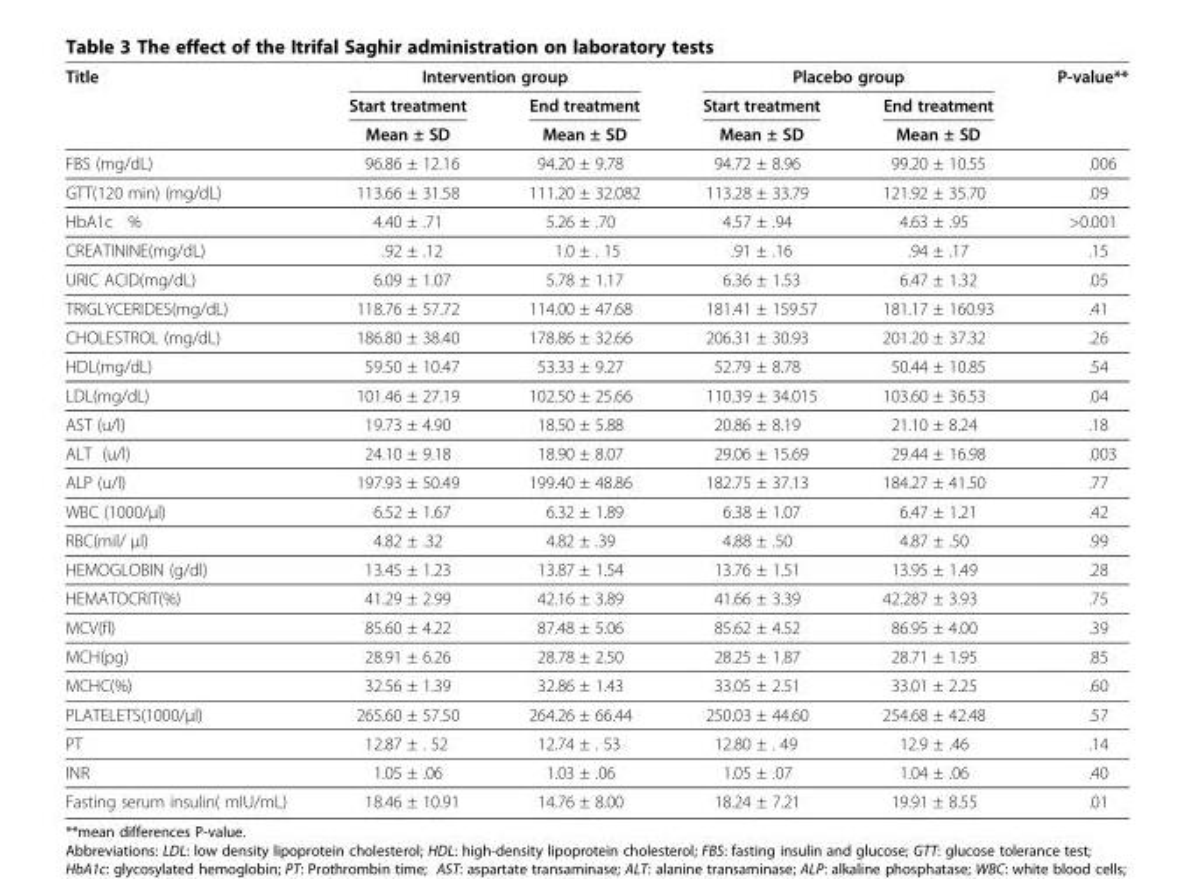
<table><thead><tr><td rowspan="3">Title</td><td colspan="2">Intervention group</td><td colspan="2">Placebo group</td><td rowspan="3">P-value**</td></tr><tr><td rowspan="2">Start treatment Mean ± SD</td><td rowspan="2">End treatment Mean ± SD</td><td rowspan="2">Start treatment Mean ± SD</td><td rowspan="2">End treatment Mean ± SD</td></tr><tr></tr></thead><tbody><tr><td>FBS (mg/dL)</td><td>96.86 ± 12.16</td><td>94.20 ± 9.78</td><td>94.72 ± 8.96</td><td>99.20 ± 10.55</td><td>.006</td></tr><tr><td>GTT(120 min) (mg/dL)</td><td>113.66 ± 31.58</td><td>111.20 ± 32.082</td><td>113.28 ± 33.79</td><td>121.92 ± 35.70</td><td>.09</td></tr><tr><td>HbA1c %</td><td>4.40 ± .71</td><td>5.26 ± .70</td><td>4.57 ± .94</td><td>4.63 ± .95</td><td>&gt;0.001</td></tr><tr><td>CREATININE(mg/dL)</td><td>.92 ± .12</td><td>1.0 ± . 15</td><td>.91 ± .16</td><td>.94 ± .17</td><td>.15</td></tr><tr><td>URIC ACID(mg/dL)</td><td>6.09 ± 1.07</td><td>5.78 ± 1.17</td><td>6.36 ± 1.53</td><td>6.47 ± 1.32</td><td>.05</td></tr><tr><td>TRIGLYCERIDES(mg/dL)</td><td>118.76 ± 57.72</td><td>114.00 ± 47.68</td><td>181.41 ± 159.57</td><td>181.17 ± 160.93</td><td>.41</td></tr><tr><td>CHOLESTROL (mg/dL)</td><td>186.80 ± 38.40</td><td>178.86 ± 32.66</td><td>206.31 ± 30.93</td><td>201.20 ± 37.32</td><td>.26</td></tr><tr><td>HDL(mg/dL)</td><td>59.50 ± 10.47</td><td>53.33 ± 9.27</td><td>52.79 ± 8.78</td><td>50.44 ± 10.85</td><td>.54</td></tr><tr><td>LDL(mg/dL)</td><td>101.46 ± 27.19</td><td>102.50 ± 25.66</td><td>110.39 ± 34.015</td><td>103.60 ± 36.53</td><td>.04</td></tr><tr><td>AST (u/l)</td><td>19.73 ± 4.90</td><td>18.50 ± 5.88</td><td>20.86 ± 8.19</td><td>21.10 ± 8.24</td><td>.18</td></tr><tr><td>ALT (u/l)</td><td>24.10 ± 9.18</td><td>18.90 ± 8.07</td><td>29.06 ± 15.69</td><td>29.44 ± 16.98</td><td>.003</td></tr><tr><td>ALP (u/l)</td><td>197.93 ± 50.49</td><td>199.40 ± 48.86</td><td>182.75 ± 37.13</td><td>184.27 ± 41.50</td><td>.77</td></tr><tr><td>WBC (1000/μl)</td><td>6.52 ± 1.67</td><td>6.32 ± 1.89</td><td>6.38 ± 1.07</td><td>6.47 ± 1.21</td><td>.42</td></tr><tr><td>RBC(mil/ μl)</td><td>4.82 ± .32</td><td>4.82 ± .39</td><td>4.88 ± .50</td><td>4.87 ± .50</td><td>.99</td></tr><tr><td>HEMOGLOBIN (g/dl)</td><td>13.45 ± 1.23</td><td>13.87 ± 1.54</td><td>13.76 ± 1.51</td><td>13.95 ± 1.49</td><td>.28</td></tr><tr><td>HEMATOCRIT(%)</td><td>41.29 ± 2.99</td><td>42.16 ± 3.89</td><td>41.66 ± 3.39</td><td>42.287 ± 3.93</td><td>.75</td></tr><tr><td>MCV(fl)</td><td>85.60 ± 4.22</td><td>87.48 ± 5.06</td><td>85.62 ± 4.52</td><td>86.95 ± 4.00</td><td>.39</td></tr><tr><td>MCH(pg)</td><td>28.91 ± 6.26</td><td>28.78 ± 2.50</td><td>28.25 ± 1.87</td><td>28.71 ± 1.95</td><td>.85</td></tr><tr><td>MCHC(%)</td><td>32.56 ± 1.39</td><td>32.86 ± 1.43</td><td>33.05 ± 2.51</td><td>33.01 ± 2.25</td><td>.60</td></tr><tr><td>PLATELETS(1000/μl)</td><td>265.60 ± 57.50</td><td>264.26 ± 66.44</td><td>250.03 ± 44.60</td><td>254.68 ± 42.48</td><td>.57</td></tr><tr><td>PT</td><td>12.87 ± . 52</td><td>12.74 ± . 53</td><td>12.80 ± . 49</td><td>12.9 ± .46</td><td>.14</td></tr><tr><td>INR</td><td>1.05 ± .06</td><td>1.03 ± .06</td><td>1.05 ± .07</td><td>1.04 ± .06</td><td>.40</td></tr><tr><td>Fasting serum insulin( mIU/mL)</td><td>18.46 ± 10.91</td><td>14.76 ± 8.00</td><td>18.24 ± 7.21</td><td>19.91 ± 8.55</td><td>.01</td></tr></tbody></table>